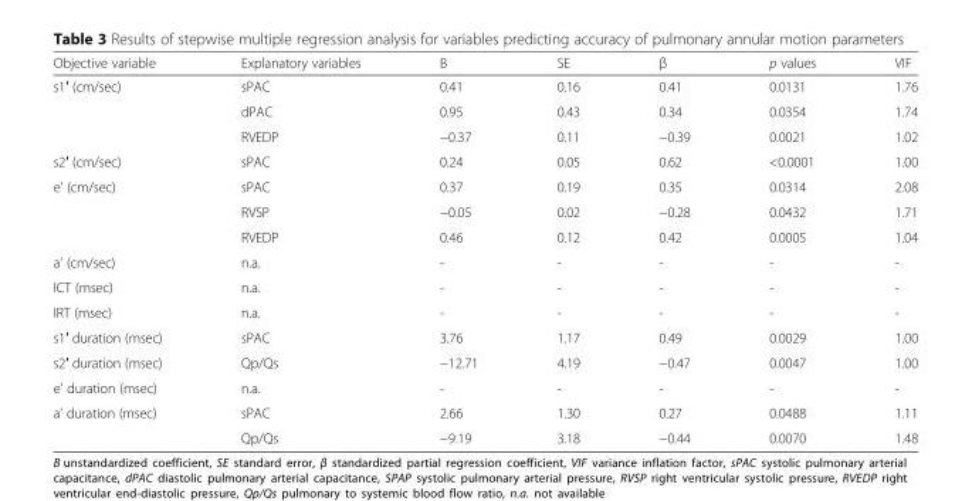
<table><thead><tr><td>Objective variable</td><td>Explanatory variables</td><td>B</td><td>SE</td><td>β</td><td>p values</td><td>VIF</td></tr></thead><tbody><tr><td rowspan="3">s1′ (cm/sec)</td><td>sPAC</td><td>0.41</td><td>0.16</td><td>0.41</td><td>0.0131</td><td>1.76</td></tr><tr><td>dPAC</td><td>0.95</td><td>0.43</td><td>0.34</td><td>0.0354</td><td>1.74</td></tr><tr><td>RVEDP</td><td>−0.37</td><td>0.11</td><td>−0.39</td><td>0.0021</td><td>1.02</td></tr><tr><td>s2′ (cm/sec)</td><td>sPAC</td><td>0.24</td><td>0.05</td><td>0.62</td><td>&lt;0.0001</td><td>1.00</td></tr><tr><td rowspan="3">e’ (cm/sec)</td><td>sPAC</td><td>0.37</td><td>0.19</td><td>0.35</td><td>0.0314</td><td>2.08</td></tr><tr><td>RVSP</td><td>−0.05</td><td>0.02</td><td>−0.28</td><td>0.0432</td><td>1.71</td></tr><tr><td>RVEDP</td><td>0.46</td><td>0.12</td><td>0.42</td><td>0.0005</td><td>1.04</td></tr><tr><td>a’ (cm/sec)</td><td>n.a.</td><td>-</td><td>-</td><td>-</td><td>-</td><td>-</td></tr><tr><td>ICT (msec)</td><td>n.a.</td><td>-</td><td>-</td><td>-</td><td>-</td><td>-</td></tr><tr><td>IRT (msec)</td><td>n.a.</td><td>-</td><td>-</td><td>-</td><td>-</td><td>-</td></tr><tr><td>s1′ duration (msec)</td><td>sPAC</td><td>3.76</td><td>1.17</td><td>0.49</td><td>0.0029</td><td>1.00</td></tr><tr><td>s2′ duration (msec)</td><td>Qp/Qs</td><td>−12.71</td><td>4.19</td><td>−0.47</td><td>0.0047</td><td>1.00</td></tr><tr><td>e’ duration (msec)</td><td>n.a.</td><td>-</td><td>-</td><td>-</td><td>-</td><td>-</td></tr><tr><td rowspan="2">a’ duration (msec)</td><td>sPAC</td><td>2.66</td><td>1.30</td><td>0.27</td><td>0.0488</td><td>1.11</td></tr><tr><td>Qp/Qs</td><td>−9.19</td><td>3.18</td><td>−0.44</td><td>0.0070</td><td>1.48</td></tr></tbody></table>